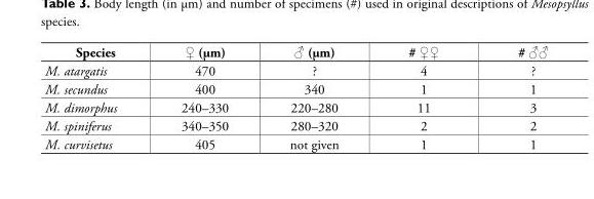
<table><thead><tr><td>Species</td><td>♀ (μm)</td><td>♂ (μm)</td><td># ♀♀</td><td># ♂♂</td></tr></thead><tbody><tr><td>M. atargatis</td><td>470</td><td>?</td><td>4</td><td>?</td></tr><tr><td>M. secundus</td><td>400</td><td>340</td><td>1</td><td>1</td></tr><tr><td>M. dimorphus</td><td>240–330</td><td>220–280</td><td>11</td><td>3</td></tr><tr><td>M. spiniferus</td><td>340–350</td><td>280–320</td><td>2</td><td>2</td></tr><tr><td>M. curvisetus</td><td>405</td><td>not given</td><td>1</td><td>1</td></tr></tbody></table>